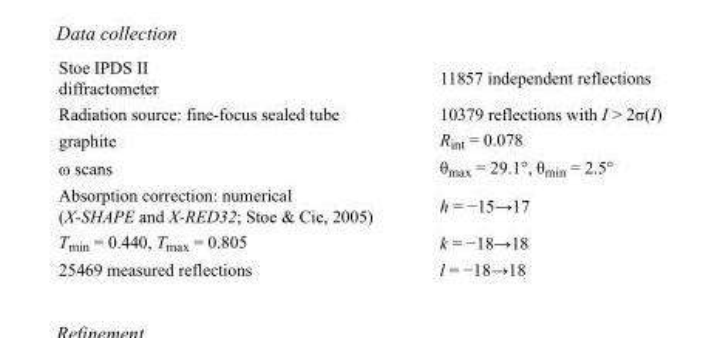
<table><tbody><tr><td>Stoe IPDS II diffractometer</td><td>11857 independent reflections</td></tr><tr><td>Radiation source: fine-focus sealed tube</td><td>10379 reflections with I &gt; 2σ(I)</td></tr><tr><td>graphite</td><td>R<sub>int</sub> = 0.078</td></tr><tr><td>ω scans</td><td>θ<sub>max</sub> = 29.1°, θ<sub>min</sub> = 2.5°</td></tr><tr><td>Absorption correction: numerical (X-SHAPE and X-RED32; Stoe &amp; Cie, 2005)</td><td>h = −15→17</td></tr><tr><td>T<sub>min</sub> = 0.440, T<sub>max</sub> = 0.805</td><td>k = −18→18</td></tr><tr><td>25469 measured reflections</td><td>l = −18→18</td></tr></tbody></table>